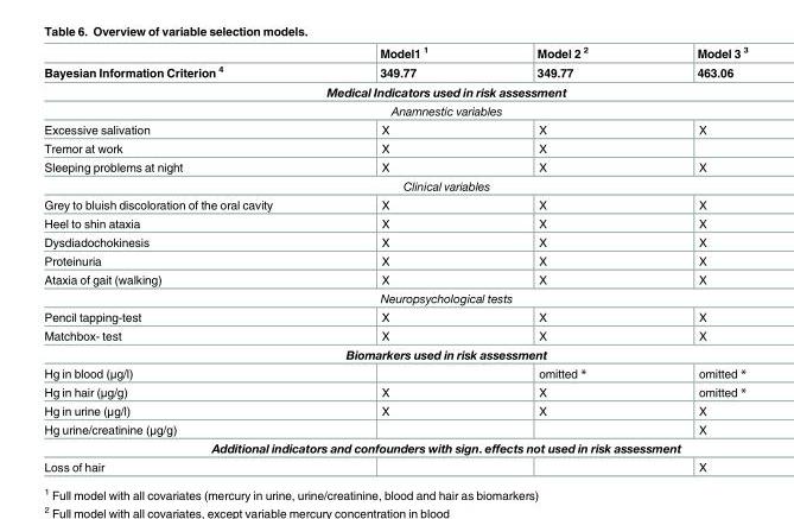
<table><thead><tr><td rowspan="2">Bayesian Information Criterion <sup>4</sup></td><td rowspan="2">Model1 <sup>1</sup> 349.77</td><td rowspan="2">Model 2 <sup>2</sup> 349.77</td><td rowspan="2">Model 3 <sup>3</sup> 463.06</td></tr><tr></tr></thead><tbody><tr><td colspan="4">Medical Indicators used in risk assessment</td></tr><tr><td colspan="4">Anamnestic variables</td></tr><tr><td>Excessive salivation</td><td>X</td><td>X</td><td>X</td></tr><tr><td>Tremor at work</td><td>X</td><td>X</td><td></td></tr><tr><td>Sleeping problems at night</td><td>X</td><td>X</td><td>X</td></tr><tr><td colspan="4">Clinical variables</td></tr><tr><td>Grey to bluish discoloration of the oral cavity</td><td>X</td><td>X</td><td>X</td></tr><tr><td>Heel to shin ataxia</td><td>X</td><td>X</td><td>X</td></tr><tr><td>Dysdiadochokinesis</td><td>X</td><td>X</td><td>X</td></tr><tr><td>Proteinuria</td><td>X</td><td>X</td><td>X</td></tr><tr><td>Ataxia of gait (walking)</td><td>X</td><td>X</td><td>X</td></tr><tr><td colspan="4">Neuropsychological tests</td></tr><tr><td>Pencil tapping-test</td><td>X</td><td>X</td><td>X</td></tr><tr><td>Matchbox- test</td><td>X</td><td>X</td><td>X</td></tr><tr><td colspan="4">Biomarkers used in risk assessment</td></tr><tr><td>Hg in blood (μg/l)</td><td></td><td>omitted *</td><td>omitted *</td></tr><tr><td>Hg in hair (μg/g)</td><td>X</td><td>X</td><td>omitted *</td></tr><tr><td>Hg in urine (μg/l)</td><td>X</td><td>X</td><td>X</td></tr><tr><td>Hg urine/creatinine (μg/g)</td><td></td><td></td><td>X</td></tr><tr><td colspan="4">Additional indicators and confounders with sign. effects not used in risk assessment</td></tr><tr><td>Loss of hair</td><td></td><td></td><td>X</td></tr></tbody></table>